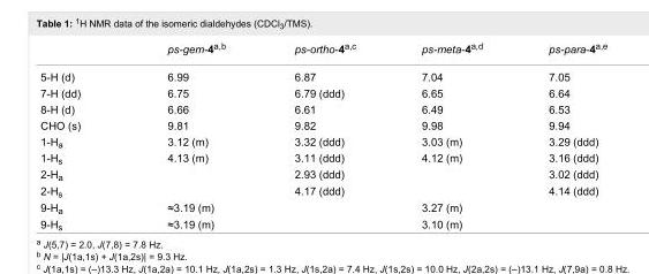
<table><thead><tr><td></td><td>ps-gem-4<sup>a,b</sup></td><td>ps-ortho-4<sup>a,c</sup></td><td>ps-meta-4<sup>a,d</sup></td><td>ps-para-4<sup>a,e</sup></td></tr></thead><tbody><tr><td>5-H (d)</td><td>6.99</td><td>6.87</td><td>7.04</td><td>7.05</td></tr><tr><td>7-H (dd)</td><td>6.75</td><td>6.79 (ddd)</td><td>6.65</td><td>6.64</td></tr><tr><td>8-H (d)</td><td>6.66</td><td>6.61</td><td>6.49</td><td>6.53</td></tr><tr><td>CHO (s)</td><td>9.81</td><td>9.82</td><td>9.98</td><td>9.94</td></tr><tr><td>1-H<sub>a</sub></td><td>3.12 (m)</td><td>3.32 (ddd)</td><td>3.03 (m)</td><td>3.29 (ddd)</td></tr><tr><td>1-H<sub>s</sub></td><td>4.13 (m)</td><td>3.11 (ddd)</td><td>4.12 (m)</td><td>3.16 (ddd)</td></tr><tr><td>2-H<sub>a</sub></td><td></td><td>2.93 (ddd)</td><td></td><td>3.02 (ddd)</td></tr><tr><td>2-H<sub>s</sub></td><td></td><td>4.17 (ddd)</td><td></td><td>4.14 (ddd)</td></tr><tr><td>9-H<sub>a</sub></td><td>≈3.19 (m)</td><td></td><td>3.27 (m)</td><td></td></tr><tr><td>9-H<sub>s</sub></td><td>≈3.19 (m)</td><td></td><td>3.10 (m)</td><td></td></tr></tbody></table>